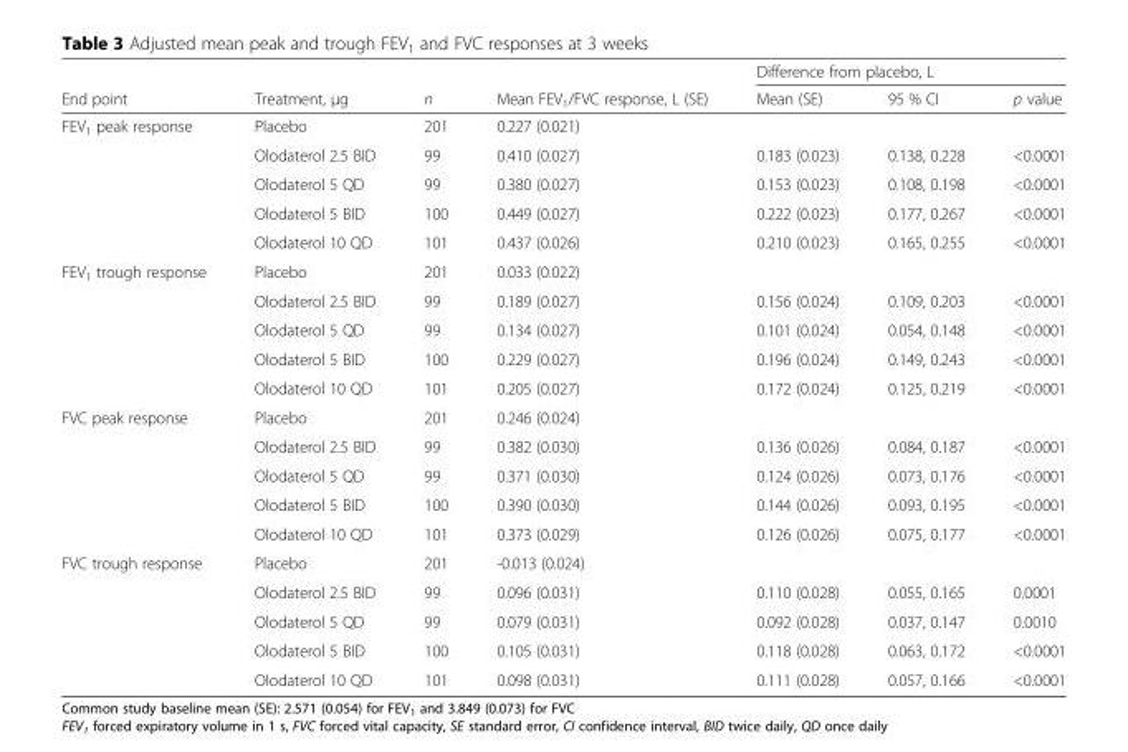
<table><thead><tr><td rowspan="2">End point</td><td rowspan="2">Treatment, μg</td><td rowspan="2">n</td><td rowspan="2">Mean FEV<sub>1</sub>/FVC response, L (SE)</td><td colspan="3">Difference from placebo, L</td></tr><tr><td>Mean (SE)</td><td>95 % CI</td><td>p value</td></tr></thead><tbody><tr><td rowspan="5">FEV<sub>1</sub> peak response</td><td>Placebo</td><td>201</td><td>0.227 (0.021)</td><td></td><td></td><td></td></tr><tr><td>Olodaterol 2.5 BID</td><td>99</td><td>0.410 (0.027)</td><td>0.183 (0.023)</td><td>0.138, 0.228</td><td>&lt;0.0001</td></tr><tr><td>Olodaterol 5 QD</td><td>99</td><td>0.380 (0.027)</td><td>0.153 (0.023)</td><td>0.108, 0.198</td><td>&lt;0.0001</td></tr><tr><td>Olodaterol 5 BID</td><td>100</td><td>0.449 (0.027)</td><td>0.222 (0.023)</td><td>0.177, 0.267</td><td>&lt;0.0001</td></tr><tr><td>Olodaterol 10 QD</td><td>101</td><td>0.437 (0.026)</td><td>0.210 (0.023)</td><td>0.165, 0.255</td><td>&lt;0.0001</td></tr><tr><td rowspan="5">FEV<sub>1</sub> trough response</td><td>Placebo</td><td>201</td><td>0.033 (0.022)</td><td></td><td></td><td></td></tr><tr><td>Olodaterol 2.5 BID</td><td>99</td><td>0.189 (0.027)</td><td>0.156 (0.024)</td><td>0.109, 0.203</td><td>&lt;0.0001</td></tr><tr><td>Olodaterol 5 QD</td><td>99</td><td>0.134 (0.027)</td><td>0.101 (0.024)</td><td>0.054, 0.148</td><td>&lt;0.0001</td></tr><tr><td>Olodaterol 5 BID</td><td>100</td><td>0.229 (0.027)</td><td>0.196 (0.024)</td><td>0.149, 0.243</td><td>&lt;0.0001</td></tr><tr><td>Olodaterol 10 QD</td><td>101</td><td>0.205 (0.027)</td><td>0.172 (0.024)</td><td>0.125, 0.219</td><td>&lt;0.0001</td></tr><tr><td rowspan="5">FVC peak response</td><td>Placebo</td><td>201</td><td>0.246 (0.024)</td><td></td><td></td><td></td></tr><tr><td>Olodaterol 2.5 BID</td><td>99</td><td>0.382 (0.030)</td><td>0.136 (0.026)</td><td>0.084, 0.187</td><td>&lt;0.0001</td></tr><tr><td>Olodaterol 5 QD</td><td>99</td><td>0.371 (0.030)</td><td>0.124 (0.026)</td><td>0.073, 0.176</td><td>&lt;0.0001</td></tr><tr><td>Olodaterol 5 BID</td><td>100</td><td>0.390 (0.030)</td><td>0.144 (0.026)</td><td>0.093, 0.195</td><td>&lt;0.0001</td></tr><tr><td>Olodaterol 10 QD</td><td>101</td><td>0.373 (0.029)</td><td>0.126 (0.026)</td><td>0.075, 0.177</td><td>&lt;0.0001</td></tr><tr><td rowspan="5">FVC trough response</td><td>Placebo</td><td>201</td><td>-0.013 (0.024)</td><td></td><td></td><td></td></tr><tr><td>Olodaterol 2.5 BID</td><td>99</td><td>0.096 (0.031)</td><td>0.110 (0.028)</td><td>0.055, 0.165</td><td>0.0001</td></tr><tr><td>Olodaterol 5 QD</td><td>99</td><td>0.079 (0.031)</td><td>0.092 (0.028)</td><td>0.037, 0.147</td><td>0.0010</td></tr><tr><td>Olodaterol 5 BID</td><td>100</td><td>0.105 (0.031)</td><td>0.118 (0.028)</td><td>0.063, 0.172</td><td>&lt;0.0001</td></tr><tr><td>Olodaterol 10 QD</td><td>101</td><td>0.098 (0.031)</td><td>0.111 (0.028)</td><td>0.057, 0.166</td><td>&lt;0.0001</td></tr></tbody></table>